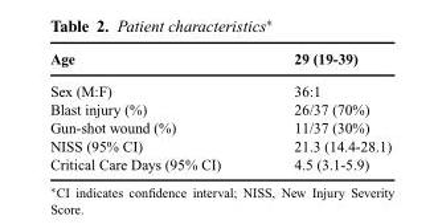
<table><thead><tr><td>Age</td><td>29 (19-39)</td></tr></thead><tbody><tr><td>Sex (M:F)</td><td>36:1</td></tr><tr><td>Blast injury (%)</td><td>26/37 (70%)</td></tr><tr><td>Gun-shot wound (%)</td><td>11/37 (30%)</td></tr><tr><td>NISS (95% CI)</td><td>21.3 (14.4-28.1)</td></tr><tr><td>Critical Care Days (95% CI)</td><td>4.5 (3.1-5.9)</td></tr></tbody></table>